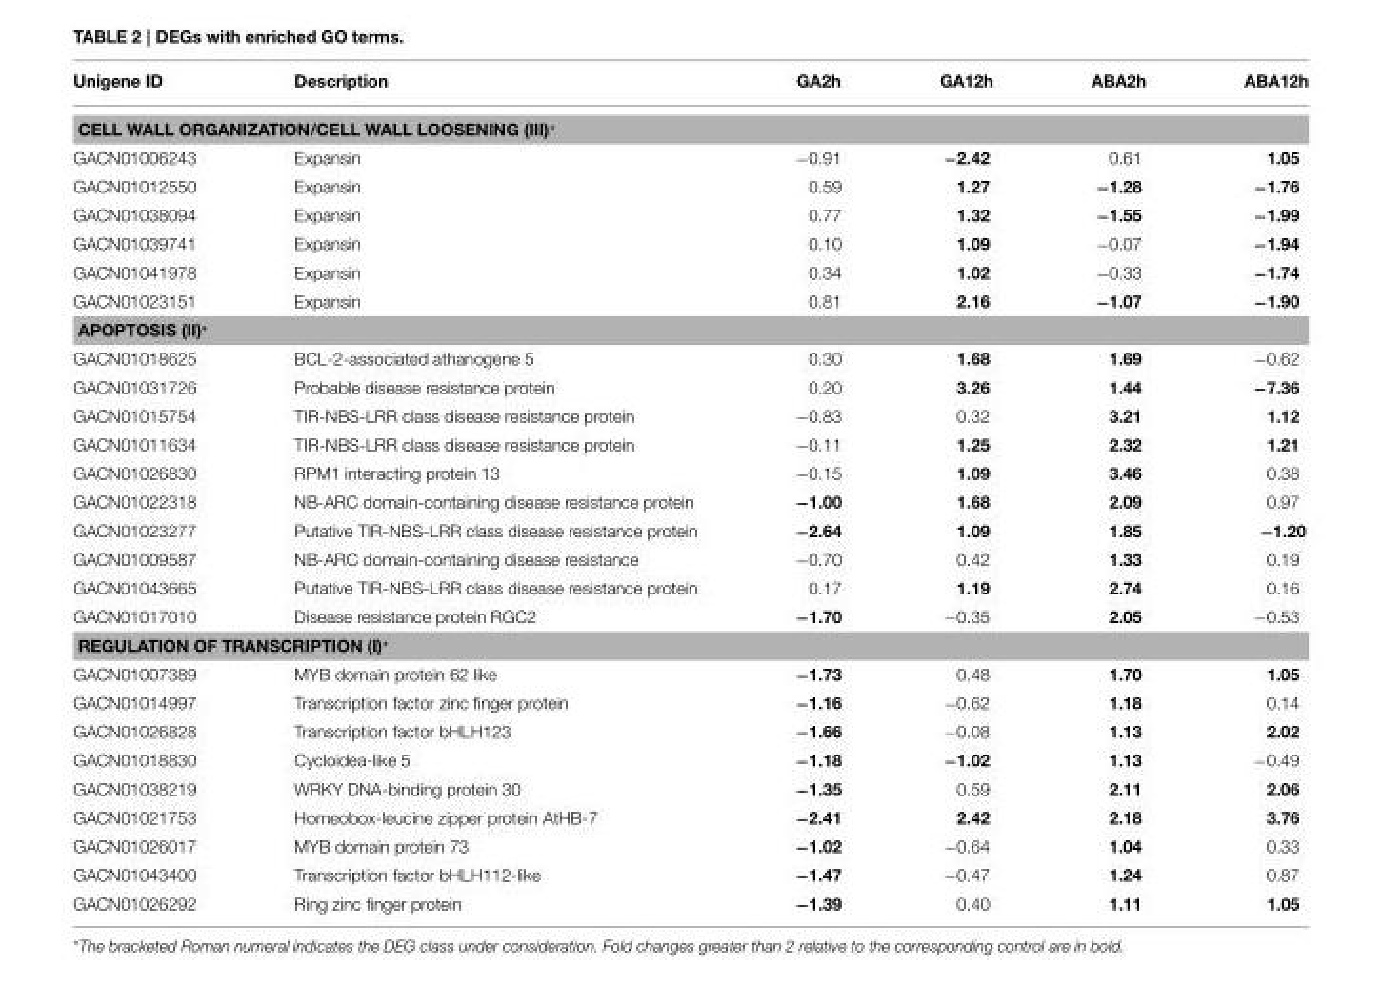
<table><thead><tr><td>Unigene ID</td><td>Description</td><td>GA2h</td><td>GA12h</td><td>ABA2h</td><td>ABA12h</td></tr></thead><tbody><tr><td colspan="6">CELL WALL ORGANIZATION/CELL WALL LOOSENING (III)*</td></tr><tr><td>GACN01006243</td><td>Expansin</td><td>−0.91</td><td>−2.42</td><td>0.61</td><td>1.05</td></tr><tr><td>GACN01012550</td><td>Expansin</td><td>0.59</td><td>1.27</td><td>−1.28</td><td>−1.76</td></tr><tr><td>GACN01038094</td><td>Expansin</td><td>0.77</td><td>1.32</td><td>−1.55</td><td>−1.99</td></tr><tr><td>GACN01039741</td><td>Expansin</td><td>0.10</td><td>1.09</td><td>−0.07</td><td>−1.94</td></tr><tr><td>GACN01041978</td><td>Expansin</td><td>0.34</td><td>1.02</td><td>−0.33</td><td>−1.74</td></tr><tr><td>GACN01023151</td><td>Expansin</td><td>0.81</td><td>2.16</td><td>−1.07</td><td>−1.90</td></tr><tr><td colspan="6">APOPTOSIS (II)*</td></tr><tr><td>GACN01018625</td><td>BCL-2-associated athanogene 5</td><td>0.30</td><td>1.68</td><td>1.69</td><td>−0.62</td></tr><tr><td>GACN01031726</td><td>Probable disease resistance protein</td><td>0.20</td><td>3.26</td><td>1.44</td><td>−7.36</td></tr><tr><td>GACN01015754</td><td>TIR-NBS-LRR class disease resistance protein</td><td>−0.83</td><td>0.32</td><td>3.21</td><td>1.12</td></tr><tr><td>GACN01011634</td><td>TIR-NBS-LRR class disease resistance protein</td><td>−0.11</td><td>1.25</td><td>2.32</td><td>1.21</td></tr><tr><td>GACN01026830</td><td>RPM1 interacting protein 13</td><td>−0.15</td><td>1.09</td><td>3.46</td><td>0.38</td></tr><tr><td>GACN01022318</td><td>NB-ARC domain-containing disease resistance protein</td><td>−1.00</td><td>1.68</td><td>2.09</td><td>0.97</td></tr><tr><td>GACN01023277</td><td>Putative TIR-NBS-LRR class disease resistance protein</td><td>−2.64</td><td>1.09</td><td>1.85</td><td>−1.20</td></tr><tr><td>GACN01009587</td><td>NB-ARC domain-containing disease resistance</td><td>−0.70</td><td>0.42</td><td>1.33</td><td>0.19</td></tr><tr><td>GACN01043665</td><td>Putative TIR-NBS-LRR class disease resistance protein</td><td>0.17</td><td>1.19</td><td>2.74</td><td>0.16</td></tr><tr><td>GACN01017010</td><td>Disease resistance protein RGC2</td><td>−1.70</td><td>−0.35</td><td>2.05</td><td>−0.53</td></tr><tr><td colspan="6">REGULATION OF TRANSCRIPTION (I)*</td></tr><tr><td>GACN01007389</td><td>MYB domain protein 62 like</td><td>−1.73</td><td>0.48</td><td>1.70</td><td>1.05</td></tr><tr><td>GACN01014997</td><td>Transcription factor zinc finger protein</td><td>−1.16</td><td>−0.62</td><td>1.18</td><td>0.14</td></tr><tr><td>GACN01026828</td><td>Transcription factor bHLH123</td><td>−1.66</td><td>−0.08</td><td>1.13</td><td>2.02</td></tr><tr><td>GACN01018830</td><td>Cycloidea-like 5</td><td>−1.18</td><td>−1.02</td><td>1.13</td><td>−0.49</td></tr><tr><td>GACN01038219</td><td>WRKY DNA-binding protein 30</td><td>−1.35</td><td>0.59</td><td>2.11</td><td>2.06</td></tr><tr><td>GACN01021753</td><td>Homeobox-leucine zipper protein AtHB-7</td><td>−2.41</td><td>2.42</td><td>2.18</td><td>3.76</td></tr><tr><td>GACN01026017</td><td>MYB domain protein 73</td><td>−1.02</td><td>−0.64</td><td>1.04</td><td>0.33</td></tr><tr><td>GACN01043400</td><td>Transcription factor bHLH112-like</td><td>−1.47</td><td>−0.47</td><td>1.24</td><td>0.87</td></tr><tr><td>GACN01026292</td><td>Ring zinc finger protein</td><td>−1.39</td><td>0.40</td><td>1.11</td><td>1.05</td></tr></tbody></table>